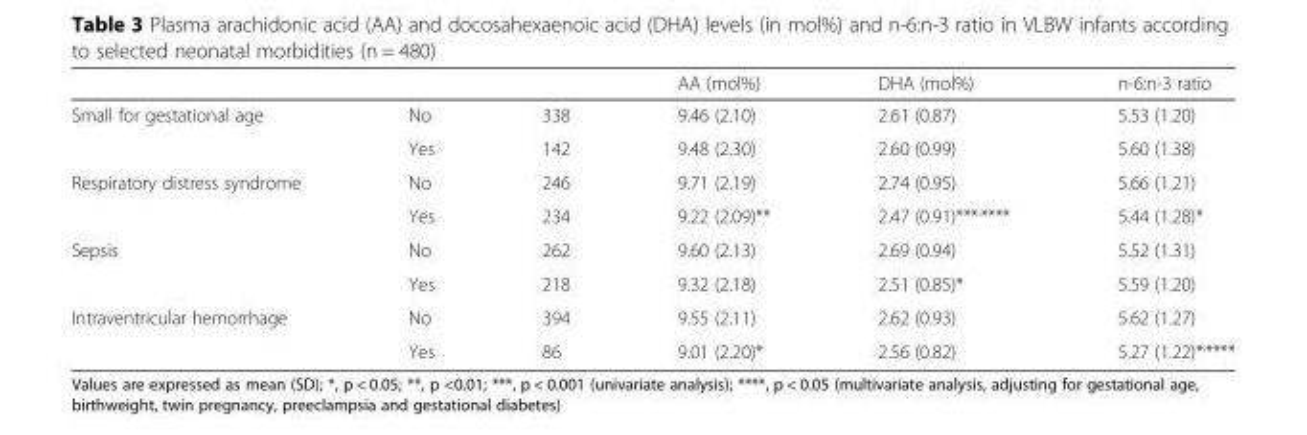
<table><thead><tr><td></td><td></td><td></td><td>AA (mol%)</td><td>DHA (mol%)</td><td>n-6:n-3 ratio</td></tr></thead><tbody><tr><td rowspan="2">Small for gestational age</td><td>No</td><td>338</td><td>9.46 (2.10)</td><td>2.61 (0.87)</td><td>5.53 (1.20)</td></tr><tr><td>Yes</td><td>142</td><td>9.48 (2.30)</td><td>2.60 (0.99)</td><td>5.60 (1.38)</td></tr><tr><td rowspan="2">Respiratory distress syndrome</td><td>No</td><td>246</td><td>9.71 (2.19)</td><td>2.74 (0.95)</td><td>5.66 (1.21)</td></tr><tr><td>Yes</td><td>234</td><td>9.22 (2.09)**</td><td>2.47 (0.91)***<sup>,</sup>****</td><td>5.44 (1.28)*</td></tr><tr><td rowspan="2">Sepsis</td><td>No</td><td>262</td><td>9.60 (2.13)</td><td>2.69 (0.94)</td><td>5.52 (1.31)</td></tr><tr><td>Yes</td><td>218</td><td>9.32 (2.18)</td><td>2.51 (0.85)*</td><td>5.59 (1.20)</td></tr><tr><td rowspan="2">Intraventricular hemorrhage</td><td>No</td><td>394</td><td>9.55 (2.11)</td><td>2.62 (0.93)</td><td>5.62 (1.27)</td></tr><tr><td>Yes</td><td>86</td><td>9.01 (2.20)*</td><td>2.56 (0.82)</td><td>5.27 (1.22)*<sup>,</sup>****</td></tr></tbody></table>